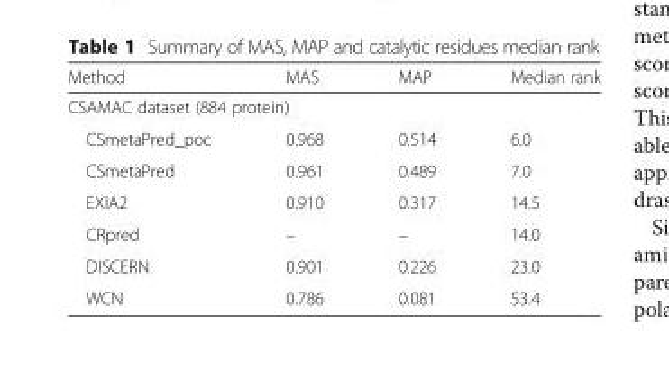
<table><thead><tr><td>Method</td><td>MAS</td><td>MAP</td><td>Median rank</td></tr></thead><tbody><tr><td colspan="4">CSAMAC dataset (884 protein)</td></tr><tr><td>CSmetaPred_poc</td><td>0.968</td><td>0.514</td><td>6.0</td></tr><tr><td>CSmetaPred</td><td>0.961</td><td>0.489</td><td>7.0</td></tr><tr><td>EXIA2</td><td>0.910</td><td>0.317</td><td>14.5</td></tr><tr><td>CRpred</td><td>–</td><td>–</td><td>14.0</td></tr><tr><td>DISCERN</td><td>0.901</td><td>0.226</td><td>23.0</td></tr><tr><td>WCN</td><td>0.786</td><td>0.081</td><td>53.4</td></tr></tbody></table>